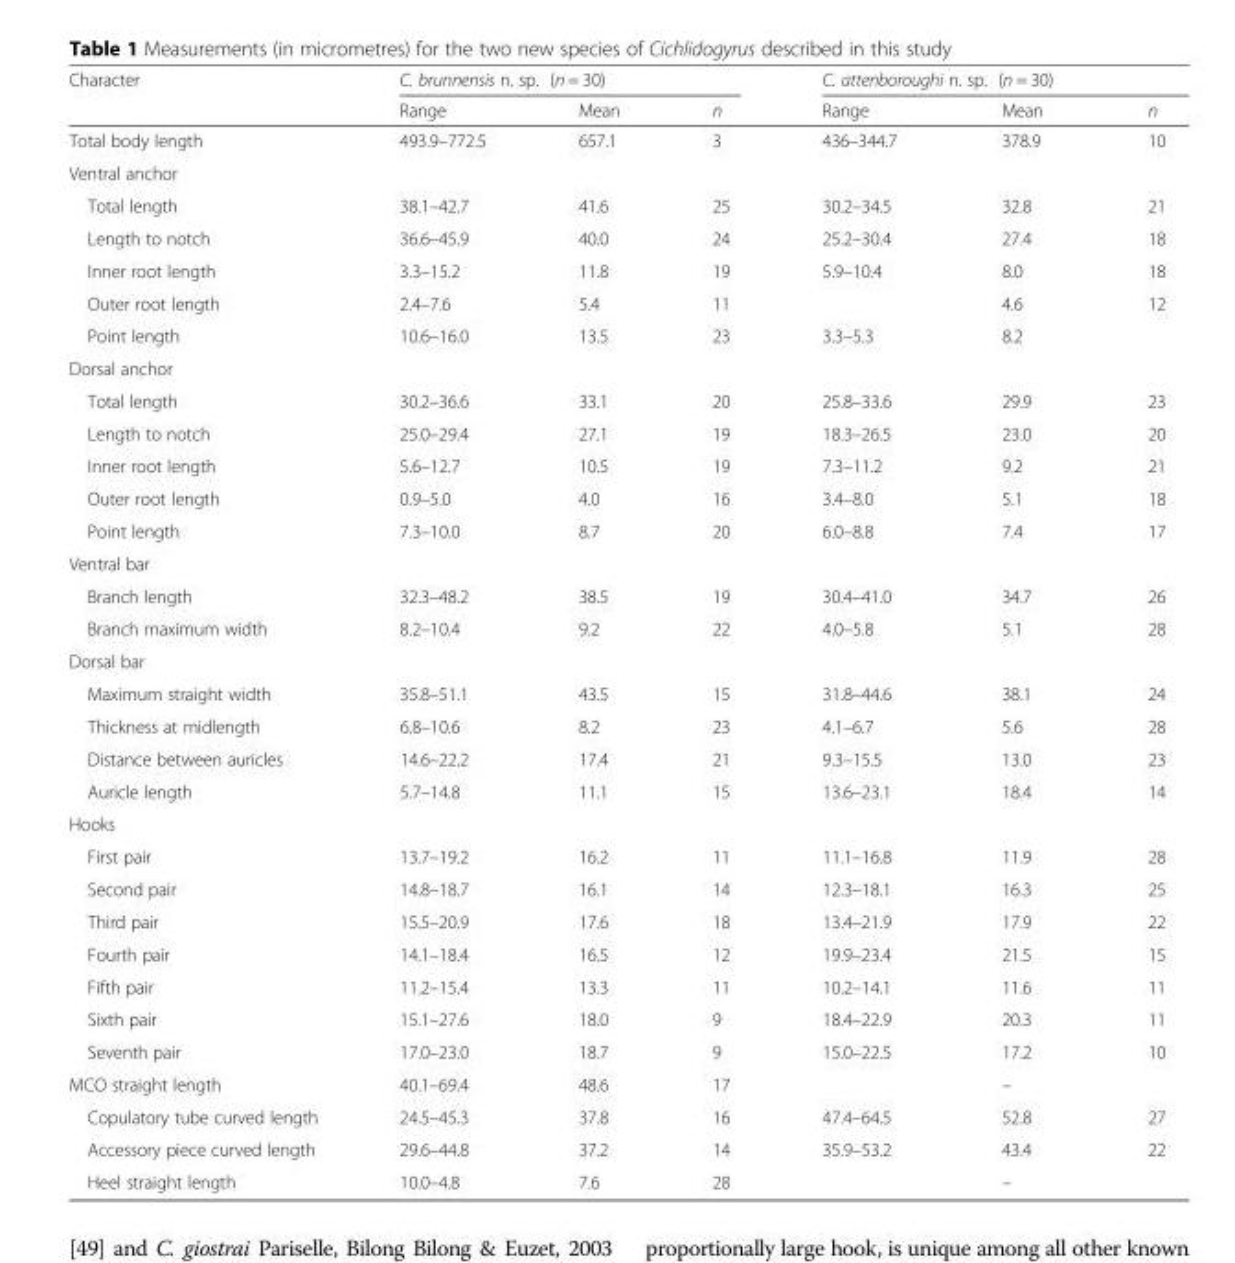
<table><thead><tr><td rowspan="2">Character</td><td colspan="3">C. brunnensis n. sp. (n = 30)</td><td colspan="3">C. attenboroughi n. sp. (n = 30)</td></tr><tr><td>Range</td><td>Mean</td><td>n</td><td>Range</td><td>Mean</td><td>n</td></tr></thead><tbody><tr><td>Total body length</td><td>493.9–772.5</td><td>657.1</td><td>3</td><td>436–344.7</td><td>378.9</td><td>10</td></tr><tr><td colspan="7">Ventral anchor</td></tr><tr><td>Total length</td><td>38.1–42.7</td><td>41.6</td><td>25</td><td>30.2–34.5</td><td>32.8</td><td>21</td></tr><tr><td>Length to notch</td><td>36.6–45.9</td><td>40.0</td><td>24</td><td>25.2–30.4</td><td>27.4</td><td>18</td></tr><tr><td>Inner root length</td><td>3.3–15.2</td><td>11.8</td><td>19</td><td>5.9–10.4</td><td>8.0</td><td>18</td></tr><tr><td>Outer root length</td><td>2.4–7.6</td><td>5.4</td><td>11</td><td></td><td>4.6</td><td>12</td></tr><tr><td>Point length</td><td>10.6–16.0</td><td>13.5</td><td>23</td><td>3.3–5.3</td><td>8.2</td><td></td></tr><tr><td colspan="7">Dorsal anchor</td></tr><tr><td>Total length</td><td>30.2–36.6</td><td>33.1</td><td>20</td><td>25.8–33.6</td><td>29.9</td><td>23</td></tr><tr><td>Length to notch</td><td>25.0–29.4</td><td>27.1</td><td>19</td><td>18.3–26.5</td><td>23.0</td><td>20</td></tr><tr><td>Inner root length</td><td>5.6–12.7</td><td>10.5</td><td>19</td><td>7.3–11.2</td><td>9.2</td><td>21</td></tr><tr><td>Outer root length</td><td>0.9–5.0</td><td>4.0</td><td>16</td><td>3.4–8.0</td><td>5.1</td><td>18</td></tr><tr><td>Point length</td><td>7.3–10.0</td><td>8.7</td><td>20</td><td>6.0–8.8</td><td>7.4</td><td>17</td></tr><tr><td colspan="7">Ventral bar</td></tr><tr><td>Branch length</td><td>32.3–48.2</td><td>38.5</td><td>19</td><td>30.4–41.0</td><td>34.7</td><td>26</td></tr><tr><td>Branch maximum width</td><td>8.2–10.4</td><td>9.2</td><td>22</td><td>4.0–5.8</td><td>5.1</td><td>28</td></tr><tr><td colspan="7">Dorsal bar</td></tr><tr><td>Maximum straight width</td><td>35.8–51.1</td><td>43.5</td><td>15</td><td>31.8–44.6</td><td>38.1</td><td>24</td></tr><tr><td>Thickness at midlength</td><td>6.8–10.6</td><td>8.2</td><td>23</td><td>4.1–6.7</td><td>5.6</td><td>28</td></tr><tr><td>Distance between auricles</td><td>14.6–22.2</td><td>17.4</td><td>21</td><td>9.3–15.5</td><td>13.0</td><td>23</td></tr><tr><td>Auricle length</td><td>5.7–14.8</td><td>11.1</td><td>15</td><td>13.6–23.1</td><td>18.4</td><td>14</td></tr><tr><td colspan="7">Hooks</td></tr><tr><td>First pair</td><td>13.7–19.2</td><td>16.2</td><td>11</td><td>11.1–16.8</td><td>11.9</td><td>28</td></tr><tr><td>Second pair</td><td>14.8–18.7</td><td>16.1</td><td>14</td><td>12.3–18.1</td><td>16.3</td><td>25</td></tr><tr><td>Third pair</td><td>15.5–20.9</td><td>17.6</td><td>18</td><td>13.4–21.9</td><td>17.9</td><td>22</td></tr><tr><td>Fourth pair</td><td>14.1–18.4</td><td>16.5</td><td>12</td><td>19.9–23.4</td><td>21.5</td><td>15</td></tr><tr><td>Fifth pair</td><td>11.2–15.4</td><td>13.3</td><td>11</td><td>10.2–14.1</td><td>11.6</td><td>11</td></tr><tr><td>Sixth pair</td><td>15.1–27.6</td><td>18.0</td><td>9</td><td>18.4–22.9</td><td>20.3</td><td>11</td></tr><tr><td>Seventh pair</td><td>17.0–23.0</td><td>18.7</td><td>9</td><td>15.0–22.5</td><td>17.2</td><td>10</td></tr><tr><td>MCO straight length</td><td>40.1–69.4</td><td>48.6</td><td>17</td><td></td><td>–</td><td></td></tr><tr><td>Copulatory tube curved length</td><td>24.5–45.3</td><td>37.8</td><td>16</td><td>47.4–64.5</td><td>52.8</td><td>27</td></tr><tr><td>Accessory piece curved length</td><td>29.6–44.8</td><td>37.2</td><td>14</td><td>35.9–53.2</td><td>43.4</td><td>22</td></tr><tr><td>Heel straight length</td><td>10.0–4.8</td><td>7.6</td><td>28</td><td></td><td>–</td><td></td></tr></tbody></table>